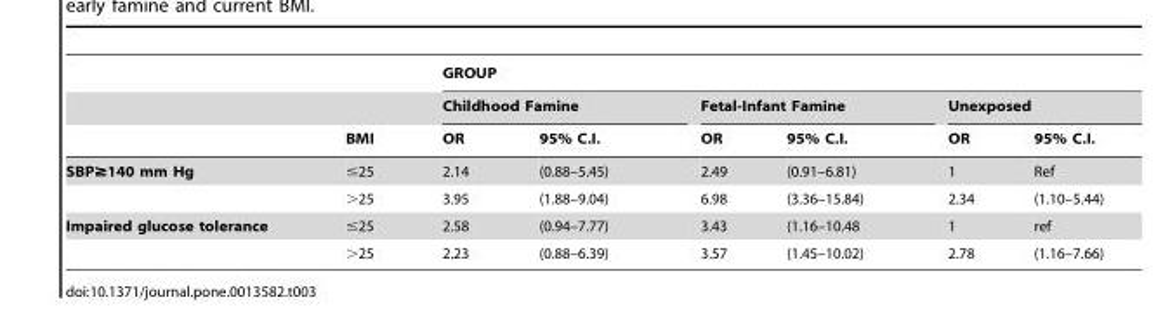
<table><thead><tr><td rowspan="3"></td><td rowspan="3">BMI</td><td colspan="6">GROUP</td></tr><tr><td colspan="2">Childhood Famine</td><td colspan="2">Fetal-Infant Famine</td><td colspan="2">Unexposed</td></tr><tr><td>OR</td><td>95% C.I.</td><td>OR</td><td>95% C.I.</td><td>OR</td><td>95% C.I.</td></tr></thead><tbody><tr><td rowspan="2">SBP≥140 mm Hg</td><td>≤25</td><td>2.14</td><td>(0.88–5.45)</td><td>2.49</td><td>(0.91–6.81)</td><td>1</td><td>Ref</td></tr><tr><td>&gt;25</td><td>3.95</td><td>(1.88–9.04)</td><td>6.98</td><td>(3.36–15.84)</td><td>2.34</td><td>(1.10–5.44)</td></tr><tr><td rowspan="2">Impaired glucose tolerance</td><td>≤25</td><td>2.58</td><td>(0.94–7.77)</td><td>3.43</td><td>(1.16–10.48</td><td>1</td><td>ref</td></tr><tr><td>&gt;25</td><td>2.23</td><td>(0.88–6.39)</td><td>3.57</td><td>(1.45–10.02)</td><td>2.78</td><td>(1.16–7.66)</td></tr></tbody></table>